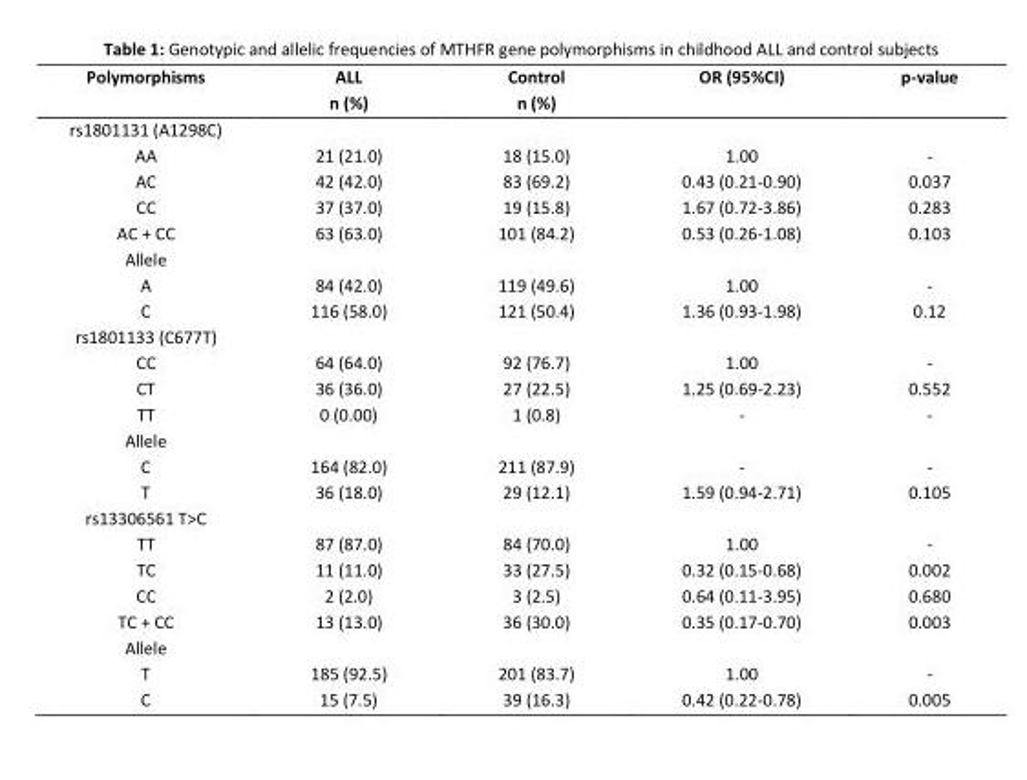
<table><thead><tr><td>Polymorphisms</td><td>ALL n (%)</td><td>Control n (%)</td><td>OR (95%CI)</td><td>p-value</td></tr></thead><tbody><tr><td colspan="5">rs1801131 (A1298C)</td></tr><tr><td>AA</td><td>21 (21.0)</td><td>18 (15.0)</td><td>1.00</td><td>-</td></tr><tr><td>AC</td><td>42 (42.0)</td><td>83 (69.2)</td><td>0.43 (0.21-0.90)</td><td>0.037</td></tr><tr><td>CC</td><td>37 (37.0)</td><td>19 (15.8)</td><td>1.67 (0.72-3.86)</td><td>0.283</td></tr><tr><td>AC + CC</td><td>63 (63.0)</td><td>101 (84.2)</td><td>0.53 (0.26-1.08)</td><td>0.103</td></tr><tr><td colspan="5">Allele</td></tr><tr><td>A</td><td>84 (42.0)</td><td>119 (49.6)</td><td>1.00</td><td>-</td></tr><tr><td>C</td><td>116 (58.0)</td><td>121 (50.4)</td><td>1.36 (0.93-1.98)</td><td>0.12</td></tr><tr><td colspan="5">rs1801133 (C677T)</td></tr><tr><td>CC</td><td>64 (64.0)</td><td>92 (76.7)</td><td>1.00</td><td>-</td></tr><tr><td>CT</td><td>36 (36.0)</td><td>27 (22.5)</td><td>1.25 (0.69-2.23)</td><td>0.552</td></tr><tr><td>TT</td><td>0 (0.00)</td><td>1 (0.8)</td><td>-</td><td>-</td></tr><tr><td colspan="5">Allele</td></tr><tr><td>C</td><td>164 (82.0)</td><td>211 (87.9)</td><td>-</td><td>-</td></tr><tr><td>T</td><td>36 (18.0)</td><td>29 (12.1)</td><td>1.59 (0.94-2.71)</td><td>0.105</td></tr><tr><td colspan="5">rs13306561 T&gt;C</td></tr><tr><td>TT</td><td>87 (87.0)</td><td>84 (70.0)</td><td>1.00</td><td>-</td></tr><tr><td>TC</td><td>11 (11.0)</td><td>33 (27.5)</td><td>0.32 (0.15-0.68)</td><td>0.002</td></tr><tr><td>CC</td><td>2 (2.0)</td><td>3 (2.5)</td><td>0.64 (0.11-3.95)</td><td>0.680</td></tr><tr><td>TC + CC</td><td>13 (13.0)</td><td>36 (30.0)</td><td>0.35 (0.17-0.70)</td><td>0.003</td></tr><tr><td colspan="5">Allele</td></tr><tr><td>T</td><td>185 (92.5)</td><td>201 (83.7)</td><td>1.00</td><td>-</td></tr><tr><td>C</td><td>15 (7.5)</td><td>39 (16.3)</td><td>0.42 (0.22-0.78)</td><td>0.005</td></tr></tbody></table>